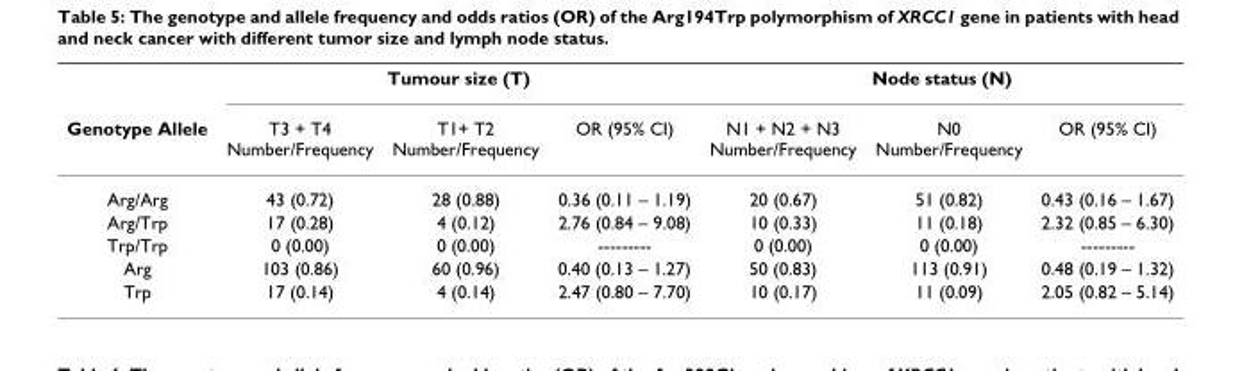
<table><thead><tr><td rowspan="2">Genotype Allele</td><td colspan="3">Tumour size (T)</td><td colspan="3">Node status (N)</td></tr><tr><td>T3 + T4 Number/Frequency</td><td>T1+ T2 Number/Frequency</td><td>OR (95% CI)</td><td>N1 + N2 + N3 Number/Frequency</td><td>N0 Number/Frequency</td><td>OR (95% CI)</td></tr></thead><tbody><tr><td>Arg/Arg</td><td>43 (0.72)</td><td>28 (0.88)</td><td>0.36 (0.11 – 1.19)</td><td>20 (0.67)</td><td>51 (0.82)</td><td>0.43 (0.16 – 1.67)</td></tr><tr><td>Arg/Trp</td><td>17 (0.28)</td><td>4 (0.12)</td><td>2.76 (0.84 – 9.08)</td><td>10 (0.33)</td><td>11 (0.18)</td><td>2.32 (0.85 – 6.30)</td></tr><tr><td>Trp/Trp</td><td>0 (0.00)</td><td>0 (0.00)</td><td>---------</td><td>0 (0.00)</td><td>0 (0.00)</td><td>---------</td></tr><tr><td>Arg</td><td>103 (0.86)</td><td>60 (0.96)</td><td>0.40 (0.13 – 1.27)</td><td>50 (0.83)</td><td>113 (0.91)</td><td>0.48 (0.19 – 1.32)</td></tr><tr><td>Trp</td><td>17 (0.14)</td><td>4 (0.14)</td><td>2.47 (0.80 – 7.70)</td><td>10 (0.17)</td><td>11 (0.09)</td><td>2.05 (0.82 – 5.14)</td></tr></tbody></table>